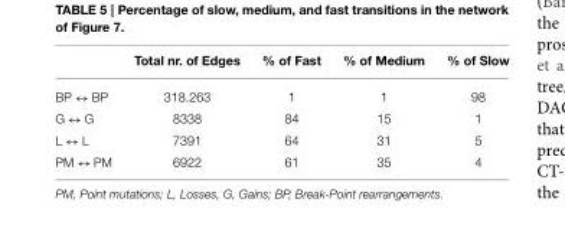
<table><thead><tr><td></td><td>Total nr. of Edges</td><td>% of Fast</td><td>% of Medium</td><td>% of Slow</td></tr></thead><tbody><tr><td>BP ↔ BP</td><td>318.263</td><td>1</td><td>1</td><td>98</td></tr><tr><td>G ↔ G</td><td>8338</td><td>84</td><td>15</td><td>1</td></tr><tr><td>L ↔ L</td><td>7391</td><td>64</td><td>31</td><td>5</td></tr><tr><td>PM ↔ PM</td><td>6922</td><td>61</td><td>35</td><td>4</td></tr></tbody></table>